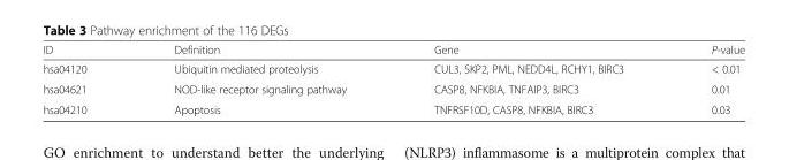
<table><thead><tr><td>ID</td><td>Definition</td><td>Gene</td><td>P-value</td></tr></thead><tbody><tr><td>hsa04120</td><td>Ubiquitin mediated proteolysis</td><td>CUL3, SKP2, PML, NEDD4L, RCHY1, BIRC3</td><td>&lt; 0.01</td></tr><tr><td>hsa04621</td><td>NOD-like receptor signaling pathway</td><td>CASP8, NFKBIA, TNFAIP3, BIRC3</td><td>0.01</td></tr><tr><td>hsa04210</td><td>Apoptosis</td><td>TNFRSF10D, CASP8, NFKBIA, BIRC3</td><td>0.03</td></tr></tbody></table>